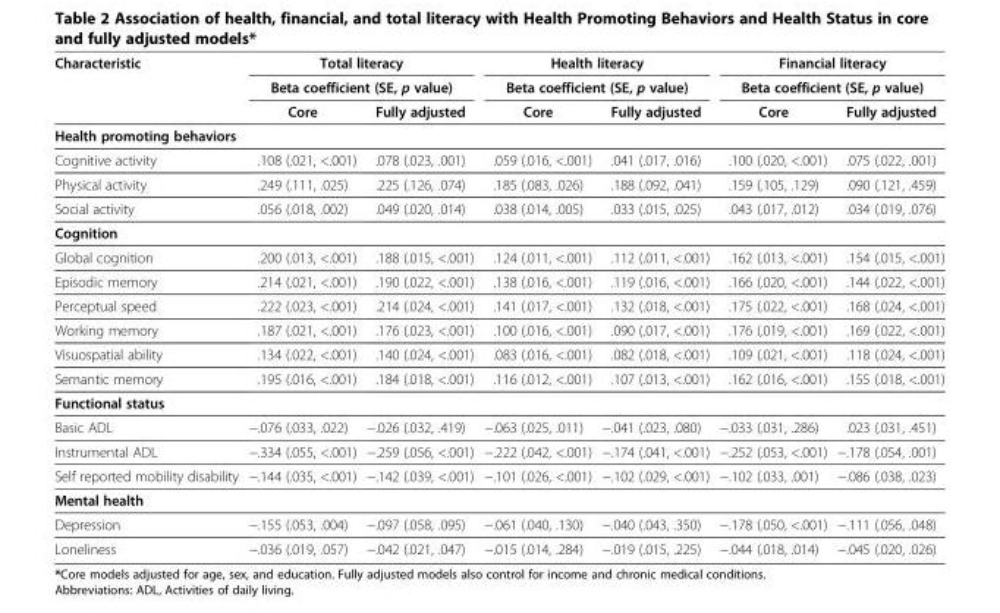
<table><thead><tr><td rowspan="3">Characteristic</td><td rowspan="2" colspan="2">Total literacy Beta coefficient (SE, p value)</td><td rowspan="2" colspan="2">Health literacy Beta coefficient (SE, p value)</td><td rowspan="2" colspan="2">Financial literacy Beta coefficient (SE, p value)</td></tr><tr></tr><tr><td>Core</td><td>Fully adjusted</td><td>Core</td><td>Fully adjusted</td><td>Core</td><td>Fully adjusted</td></tr></thead><tbody><tr><td colspan="7">Health promoting behaviors</td></tr><tr><td>Cognitive activity</td><td>.108 (.021, &lt;.001)</td><td>.078 (.023, .001)</td><td>.059 (.016, &lt;.001)</td><td>.041 (.017, .016)</td><td>.100 (.020, &lt;.001)</td><td>.075 (.022, .001)</td></tr><tr><td>Physical activity</td><td>.249 (.111, .025)</td><td>.225 (.126, .074)</td><td>.185 (.083, .026)</td><td>.188 (.092, .041)</td><td>.159 (.105, .129)</td><td>.090 (.121, .459)</td></tr><tr><td>Social activity</td><td>.056 (.018, .002)</td><td>.049 (.020, .014)</td><td>.038 (.014, .005)</td><td>.033 (.015, .025)</td><td>.043 (.017, .012)</td><td>.034 (.019, .076)</td></tr><tr><td colspan="7">Cognition</td></tr><tr><td>Global cognition</td><td>.200 (.013, &lt;.001)</td><td>.188 (.015, &lt;.001)</td><td>.124 (.011, &lt;.001)</td><td>.112 (.011, &lt;.001)</td><td>.162 (.013, &lt;.001)</td><td>.154 (.015, &lt;.001)</td></tr><tr><td>Episodic memory</td><td>.214 (.021, &lt;.001)</td><td>.190 (.022, &lt;.001)</td><td>.138 (.016, &lt;.001)</td><td>.119 (.016, &lt;.001)</td><td>.166 (.020, &lt;.001)</td><td>.144 (.022, &lt;.001)</td></tr><tr><td>Perceptual speed</td><td>.222 (.023, &lt;.001)</td><td>.214 (.024, &lt;.001)</td><td>.141 (.017, &lt;.001)</td><td>.132 (.018, &lt;.001)</td><td>.175 (.022, &lt;.001)</td><td>.168 (.024, &lt;.001)</td></tr><tr><td>Working memory</td><td>.187 (.021, &lt;.001)</td><td>.176 (.023, &lt;.001)</td><td>.100 (.016, &lt;.001)</td><td>.090 (.017, &lt;.001)</td><td>.176 (.019, &lt;.001)</td><td>.169 (.022, &lt;.001)</td></tr><tr><td>Visuospatial ability</td><td>.134 (.022, &lt;.001)</td><td>.140 (.024, &lt;.001)</td><td>.083 (.016, &lt;.001)</td><td>.082 (.018, &lt;.001)</td><td>.109 (.021, &lt;.001)</td><td>.118 (.024, &lt;.001)</td></tr><tr><td>Semantic memory</td><td>.195 (.016, &lt;.001)</td><td>.184 (.018, &lt;.001)</td><td>.116 (.012, &lt;.001)</td><td>.107 (.013, &lt;.001)</td><td>.162 (.016, &lt;.001)</td><td>.155 (.018, &lt;.001)</td></tr><tr><td colspan="7">Functional status</td></tr><tr><td>Basic ADL</td><td>−.076 (.033, .022)</td><td>−.026 (.032, .419)</td><td>−.063 (.025, .011)</td><td>−.041 (.023, .080)</td><td>−.033 (.031, .286)</td><td>.023 (.031, .451)</td></tr><tr><td>Instrumental ADL</td><td>−.334 (.055, &lt;.001)</td><td>−.259 (.056, &lt;.001)</td><td>−.222 (.042, &lt;.001)</td><td>−.174 (.041, &lt;.001)</td><td>−.252 (.053, &lt;.001)</td><td>−.178 (.054, .001)</td></tr><tr><td>Self reported mobility disability</td><td>−.144 (.035, &lt;.001)</td><td>−.142 (.039, &lt;.001)</td><td>−.101 (.026, &lt;.001)</td><td>−.102 (.029, &lt;.001)</td><td>−.102 (.033, .001)</td><td>−.086 (.038, .023)</td></tr><tr><td colspan="7">Mental health</td></tr><tr><td>Depression</td><td>−.155 (.053, .004)</td><td>−.097 (.058, .095)</td><td>−.061 (.040, .130)</td><td>−.040 (.043, .350)</td><td>−.178 (.050, &lt;.001)</td><td>−.111 (.056, .048)</td></tr><tr><td>Loneliness</td><td>−.036 (.019, .057)</td><td>−.042 (.021, .047)</td><td>−.015 (.014, .284)</td><td>−.019 (.015, .225)</td><td>−.044 (.018, .014)</td><td>−.045 (.020, .026)</td></tr></tbody></table>